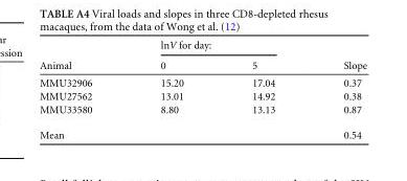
<table><thead><tr><td rowspan="2">Animal</td><td colspan="2">lnV for day:</td><td rowspan="2">Slope</td></tr><tr><td>0</td><td>5</td></tr></thead><tbody><tr><td>MMU32906</td><td>15.20</td><td>17.04</td><td>0.37</td></tr><tr><td>MMU27562</td><td>13.01</td><td>14.92</td><td>0.38</td></tr><tr><td>MMU33580</td><td>8.80</td><td>13.13</td><td>0.87</td></tr><tr><td>Mean</td><td></td><td></td><td>0.54</td></tr></tbody></table>